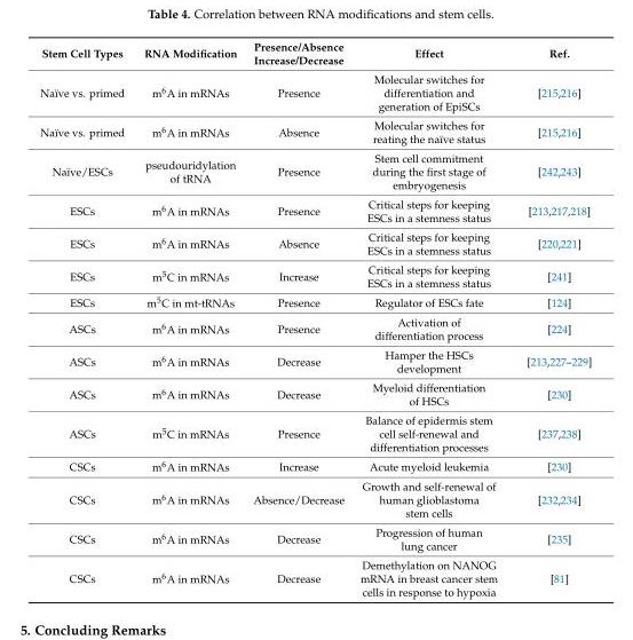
<table><thead><tr><td>Stem Cell Types</td><td>RNA Modification</td><td>Presence/Absence Increase/Decrease</td><td>Effect</td><td>Ref.</td></tr></thead><tbody><tr><td>Naïve vs. primed</td><td>m<sup>6</sup>A in mRNAs</td><td>Presence</td><td>Molecular switches for differentiation and generation of EpiSCs</td><td>[215,216]</td></tr><tr><td>Naïve vs. primed</td><td>m<sup>6</sup>A in mRNAs</td><td>Absence</td><td>Molecular switches for reating the naïve status</td><td>[215,216]</td></tr><tr><td>Naïve/ESCs</td><td>pseudouridylation of tRNA</td><td>Presence</td><td>Stem cell commitment during the first stage of embryogenesis</td><td>[242,243]</td></tr><tr><td>ESCs</td><td>m<sup>6</sup>A in mRNAs</td><td>Presence</td><td>Critical steps for keeping ESCs in a stemness status</td><td>[213,217,218]</td></tr><tr><td>ESCs</td><td>m<sup>6</sup>A in mRNAs</td><td>Absence</td><td>Critical steps for keeping ESCs in a stemness status</td><td>[220,221]</td></tr><tr><td>ESCs</td><td>m<sup>5</sup>C in mRNAs</td><td>Increase</td><td>Critical steps for keeping ESCs in a stemness status</td><td>[241]</td></tr><tr><td>ESCs</td><td>m<sup>5</sup>C in mt-tRNAs</td><td>Presence</td><td>Regulator of ESCs fate</td><td>[124]</td></tr><tr><td>ASCs</td><td>m<sup>6</sup>A in mRNAs</td><td>Presence</td><td>Activation of differentiation process</td><td>[224]</td></tr><tr><td>ASCs</td><td>m<sup>6</sup>A in mRNAs</td><td>Decrease</td><td>Hamper the HSCs development</td><td>[213,227–229]</td></tr><tr><td>ASCs</td><td>m<sup>6</sup>A in mRNAs</td><td>Decrease</td><td>Myeloid differentiation of HSCs</td><td>[230]</td></tr><tr><td>ASCs</td><td>m<sup>5</sup>C in mRNAs</td><td>Presence</td><td>Balance of epidermis stem cell self-renewal and differentiation processes</td><td>[237,238]</td></tr><tr><td>CSCs</td><td>m<sup>6</sup>A in mRNAs</td><td>Increase</td><td>Acute myeloid leukemia</td><td>[230]</td></tr><tr><td>CSCs</td><td>m<sup>6</sup>A in mRNAs</td><td>Absence/Decrease</td><td>Growth and self-renewal of human glioblastoma stem cells</td><td>[232,234]</td></tr><tr><td>CSCs</td><td>m<sup>6</sup>A in mRNAs</td><td>Decrease</td><td>Progression of human lung cancer</td><td>[235]</td></tr><tr><td>CSCs</td><td>m<sup>6</sup>A in mRNAs</td><td>Decrease</td><td>Demethylation on NANOG mRNA in breast cancer stem cells in response to hypoxia</td><td>[81]</td></tr></tbody></table>